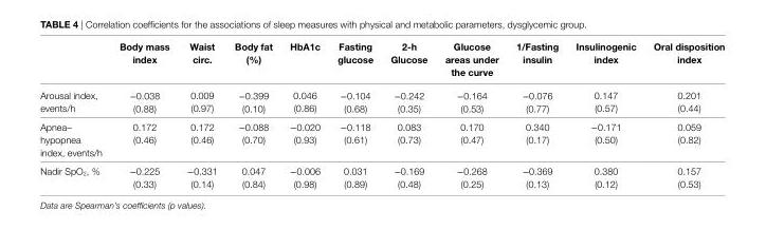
<table><thead><tr><td></td><td>Body mass index</td><td>Waist circ.</td><td>Body fat (%)</td><td>hba1c</td><td>Fasting glucose</td><td>2-h glucose</td><td>glucose areas under the curve</td><td>1/Fasting insulin</td><td>insulinogenic index</td><td>Oral disposition index</td></tr></thead><tbody><tr><td>Arousal index, events/h</td><td>−0.038 (0.88)</td><td>0.009 (0.97)</td><td>−0.399 (0.10)</td><td>0.046 (0.86)</td><td>−0.104 (0.68)</td><td>−0.242 (0.35)</td><td>−0.164 (0.53)</td><td>−0.076 (0.77)</td><td>0.147 (0.57)</td><td>0.201 (0.44)</td></tr><tr><td>Apnea– hypopnea index, events/h</td><td>0.172 (0.46)</td><td>0.172 (0.46)</td><td>−0.088 (0.70)</td><td>−0.020 (0.93)</td><td>−0.118 (0.61)</td><td>0.083 (0.73)</td><td>0.170 (0.47)</td><td>0.340 (0.17)</td><td>−0.171 (0.50)</td><td>0.059 (0.82)</td></tr><tr><td>Nadir SpO<sub>2</sub>, %</td><td>−0.225 (0.33)</td><td>−0.331 (0.14)</td><td>0.047 (0.84)</td><td>−0.006 (0.98)</td><td>0.031 (0.89)</td><td>−0.169 (0.48)</td><td>−0.268 (0.25)</td><td>−0.369 (0.13)</td><td>0.380 (0.12)</td><td>0.157 (0.53)</td></tr></tbody></table>